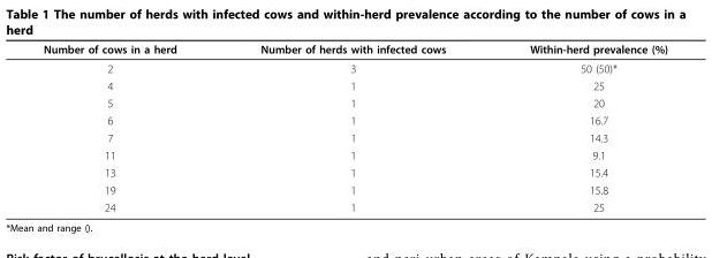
<table><thead><tr><td>Number of cows in a herd</td><td>Number of herds with infected cows</td><td>Within-herd prevalence (%)</td></tr></thead><tbody><tr><td>2</td><td>3</td><td>50 (50)*</td></tr><tr><td>4</td><td>1</td><td>25</td></tr><tr><td>5</td><td>1</td><td>20</td></tr><tr><td>6</td><td>1</td><td>16.7</td></tr><tr><td>7</td><td>1</td><td>14.3</td></tr><tr><td>11</td><td>1</td><td>9.1</td></tr><tr><td>13</td><td>1</td><td>15.4</td></tr><tr><td>19</td><td>1</td><td>15.8</td></tr><tr><td>24</td><td>1</td><td>25</td></tr></tbody></table>